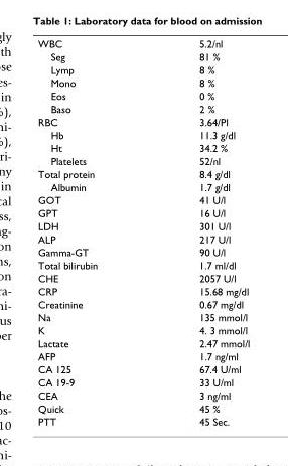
<table><tbody><tr><td>WBC</td><td>5.2/nl</td></tr><tr><td>Seg</td><td>81 %</td></tr><tr><td>Lymp</td><td>8 %</td></tr><tr><td>Mono</td><td>8 %</td></tr><tr><td>Eos</td><td>0 %</td></tr><tr><td>Baso</td><td>2 %</td></tr><tr><td>RBC</td><td>3.64/Pl</td></tr><tr><td>Hb</td><td>11.3 g/dl</td></tr><tr><td>Ht</td><td>34.2 %</td></tr><tr><td>Platelets</td><td>52/nl</td></tr><tr><td>Total protein</td><td>8.4 g/dl</td></tr><tr><td>Albumin</td><td>1.7 g/dl</td></tr><tr><td>GOT</td><td>41 U/l</td></tr><tr><td>GPT</td><td>16 U/l</td></tr><tr><td>LDH</td><td>301 U/l</td></tr><tr><td>ALP</td><td>217 U/l</td></tr><tr><td>Gamma-GT</td><td>90 U/l</td></tr><tr><td>Total bilirubin</td><td>1.7 ml/dl</td></tr><tr><td>CHE</td><td>2057 U/l</td></tr><tr><td>CRP</td><td>15.68 mg/dl</td></tr><tr><td>Creatinine</td><td>0.67 mg/dl</td></tr><tr><td>Na</td><td>135 mmol/l</td></tr><tr><td>K</td><td>4. 3 mmol/l</td></tr><tr><td>Lactate</td><td>2.47 mmol/l</td></tr><tr><td>AFP</td><td>1.7 ng/ml</td></tr><tr><td>CA 125</td><td>67.4 U/ml</td></tr><tr><td>CA 19-9</td><td>33 U/ml</td></tr><tr><td>CEA</td><td>3 ng/ml</td></tr><tr><td>Quick</td><td>45 %</td></tr><tr><td>PTT</td><td>45 Sec.</td></tr></tbody></table>